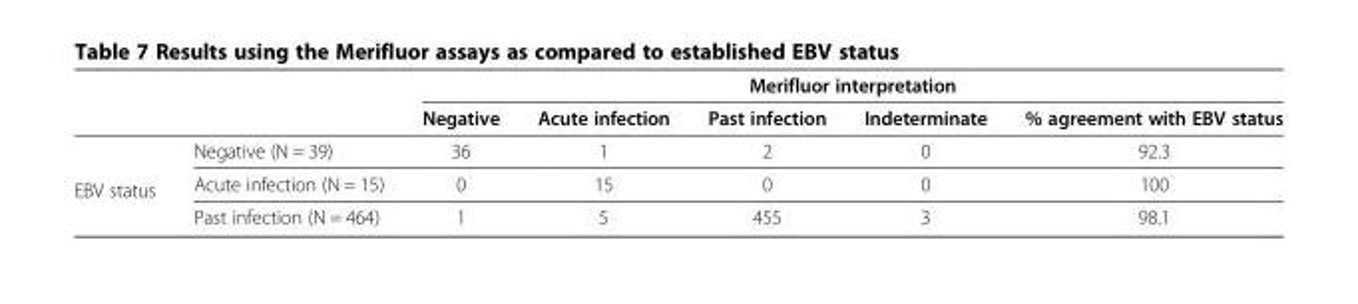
<table><thead><tr><td rowspan="2"></td><td rowspan="2"></td><td colspan="5">Merifluor interpretation</td></tr><tr><td>Negative</td><td>Acute infection</td><td>Past infection</td><td>Indeterminate</td><td>% agreement with EBV status</td></tr></thead><tbody><tr><td rowspan="3">EBV status</td><td>Negative (N = 39)</td><td>36</td><td>1</td><td>2</td><td>0</td><td>92.3</td></tr><tr><td>Acute infection (N = 15)</td><td>0</td><td>15</td><td>0</td><td>0</td><td>100</td></tr><tr><td>Past infection (N = 464)</td><td>1</td><td>5</td><td>455</td><td>3</td><td>98.1</td></tr></tbody></table>